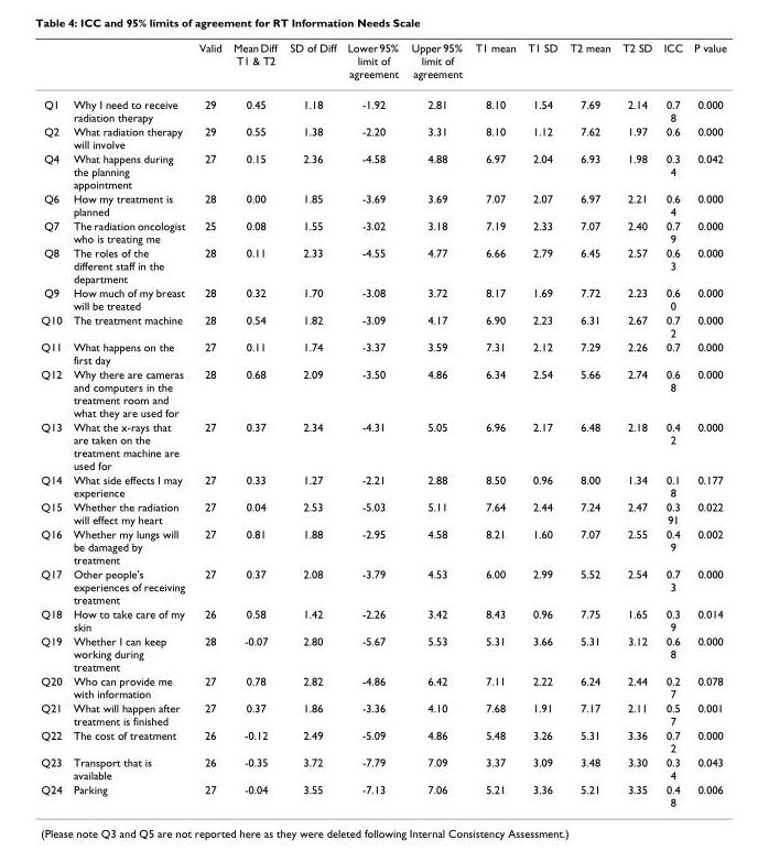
<table><thead><tr><td></td><td></td><td>Valid</td><td>Mean Diff T1 &amp; T2</td><td>SD of Diff</td><td>Lower 95% limit of agreement</td><td>Upper 95% limit of agreement</td><td>T1 mean</td><td>T1 SD</td><td>T2 mean</td><td>T2 SD</td><td>ICC</td><td>P value</td></tr></thead><tbody><tr><td>Q1</td><td>Why I need to receive radiation therapy</td><td>29</td><td>0.45</td><td>1.18</td><td>-1.92</td><td>2.81</td><td>8.10</td><td>1.54</td><td>7.69</td><td>2.14</td><td>0.7 8</td><td>0.000</td></tr><tr><td>Q2</td><td>What radiation therapy will involve</td><td>29</td><td>0.55</td><td>1.38</td><td>-2.20</td><td>3.31</td><td>8.10</td><td>1.12</td><td>7.62</td><td>1.97</td><td>0.6</td><td>0.000</td></tr><tr><td>Q4</td><td>What happens during the planning appointment</td><td>27</td><td>0.15</td><td>2.36</td><td>-4.58</td><td>4.88</td><td>6.97</td><td>2.04</td><td>6.93</td><td>1.98</td><td>0.3 4</td><td>0.042</td></tr><tr><td>Q6</td><td>How my treatment is planned</td><td>28</td><td>0.00</td><td>1.85</td><td>-3.69</td><td>3.69</td><td>7.07</td><td>2.07</td><td>6.97</td><td>2.21</td><td>0.6 4</td><td>0.000</td></tr><tr><td>Q7</td><td>The radiation oncologist who is treating me</td><td>25</td><td>0.08</td><td>1.55</td><td>-3.02</td><td>3.18</td><td>7.19</td><td>2.33</td><td>7.07</td><td>2.40</td><td>0.7 9</td><td>0.000</td></tr><tr><td>Q8</td><td>The roles of the different staff in the department</td><td>28</td><td>0.11</td><td>2.33</td><td>-4.55</td><td>4.77</td><td>6.66</td><td>2.79</td><td>6.45</td><td>2.57</td><td>0.6 3</td><td>0.000</td></tr><tr><td>Q9</td><td>How much of my breast will be treated</td><td>28</td><td>0.32</td><td>1.70</td><td>-3.08</td><td>3.72</td><td>8.17</td><td>1.69</td><td>7.72</td><td>2.23</td><td>0.6 0</td><td>0.000</td></tr><tr><td>Q10</td><td>The treatment machine</td><td>28</td><td>0.54</td><td>1.82</td><td>-3.09</td><td>4.17</td><td>6.90</td><td>2.23</td><td>6.31</td><td>2.67</td><td>0.7 2</td><td>0.000</td></tr><tr><td>Q11</td><td>What happens on the first day</td><td>27</td><td>0.11</td><td>1.74</td><td>-3.37</td><td>3.59</td><td>7.31</td><td>2.12</td><td>7.29</td><td>2.26</td><td>0.7</td><td>0.000</td></tr><tr><td>Q12</td><td>Why there are cameras and computers in the treatment room and what they are used for</td><td>28</td><td>0.68</td><td>2.09</td><td>-3.50</td><td>4.86</td><td>6.34</td><td>2.54</td><td>5.66</td><td>2.74</td><td>0.6 8</td><td>0.000</td></tr><tr><td>Q13</td><td>What the x-rays that are taken on the treatment machine are used for</td><td>27</td><td>0.37</td><td>2.34</td><td>-4.31</td><td>5.05</td><td>6.96</td><td>2.17</td><td>6.48</td><td>2.18</td><td>0.4 2</td><td>0.000</td></tr><tr><td>Q14</td><td>What side effects I may experience</td><td>27</td><td>0.33</td><td>1.27</td><td>-2.21</td><td>2.88</td><td>8.50</td><td>0.96</td><td>8.00</td><td>1.34</td><td>0.1 8</td><td>0.177</td></tr><tr><td>Q15</td><td>Whether the radiation will effect my heart</td><td>27</td><td>0.04</td><td>2.53</td><td>-5.03</td><td>5.11</td><td>7.64</td><td>2.44</td><td>7.24</td><td>2.47</td><td>0.3 91</td><td>0.022</td></tr><tr><td>Q16</td><td>Whether my lungs will be damaged by treatment</td><td>27</td><td>0.81</td><td>1.88</td><td>-2.95</td><td>4.58</td><td>8.21</td><td>1.60</td><td>7.07</td><td>2.55</td><td>0.4 9</td><td>0.002</td></tr><tr><td>Q17</td><td>Other people&#x27;s experiences of receiving treatment</td><td>27</td><td>0.37</td><td>2.08</td><td>-3.79</td><td>4.53</td><td>6.00</td><td>2.99</td><td>5.52</td><td>2.54</td><td>0.7 3</td><td>0.000</td></tr><tr><td>Q18</td><td>How to take care of my skin</td><td>26</td><td>0.58</td><td>1.42</td><td>-2.26</td><td>3.42</td><td>8.43</td><td>0.96</td><td>7.75</td><td>1.65</td><td>0.3 9</td><td>0.014</td></tr><tr><td>Q19</td><td>Whether I can keep working during treatment</td><td>28</td><td>-0.07</td><td>2.80</td><td>-5.67</td><td>5.53</td><td>5.31</td><td>3.66</td><td>5.31</td><td>3.12</td><td>0.6 8</td><td>0.000</td></tr><tr><td>Q20</td><td>Who can provide me with information</td><td>27</td><td>0.78</td><td>2.82</td><td>-4.86</td><td>6.42</td><td>7.11</td><td>2.22</td><td>6.24</td><td>2.44</td><td>0.2 7</td><td>0.078</td></tr><tr><td>Q21</td><td>What will happen after treatment is finished</td><td>27</td><td>0.37</td><td>1.86</td><td>-3.36</td><td>4.10</td><td>7.68</td><td>1.91</td><td>7.17</td><td>2.11</td><td>0.5 7</td><td>0.001</td></tr><tr><td>Q22</td><td>The cost of treatment</td><td>26</td><td>-0.12</td><td>2.49</td><td>-5.09</td><td>4.86</td><td>5.48</td><td>3.26</td><td>5.31</td><td>3.36</td><td>0.7 2</td><td>0.000</td></tr><tr><td>Q23</td><td>Transport that is available</td><td>26</td><td>-0.35</td><td>3.72</td><td>-7.79</td><td>7.09</td><td>3.37</td><td>3.09</td><td>3.48</td><td>3.30</td><td>0.3 4</td><td>0.043</td></tr><tr><td>Q24</td><td>Parking</td><td>27</td><td>-0.04</td><td>3.55</td><td>-7.13</td><td>7.06</td><td>5.21</td><td>3.36</td><td>5.21</td><td>3.35</td><td>0.4 8</td><td>0.006</td></tr></tbody></table>